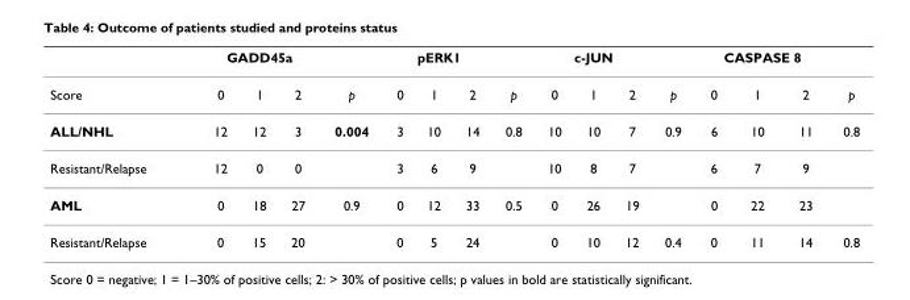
<table><thead><tr><td rowspan="2">Score</td><td colspan="3">GADD45a</td><td rowspan="2">p</td><td colspan="3">pERK1</td><td rowspan="2">p</td><td colspan="3">c-JUN</td><td rowspan="2">p</td><td colspan="3">CASPASE 8</td><td rowspan="2">p</td></tr><tr><td>0</td><td>1</td><td>2</td><td>0</td><td>1</td><td>2</td><td>0</td><td>1</td><td>2</td><td>0</td><td>1</td><td>2</td></tr></thead><tbody><tr><td>ALL/NHL</td><td>12</td><td>12</td><td>3</td><td>0.004</td><td>3</td><td>10</td><td>14</td><td>0.8</td><td>10</td><td>10</td><td>7</td><td>0.9</td><td>6</td><td>10</td><td>11</td><td>0.8</td></tr><tr><td>Resistant/Relapse</td><td>12</td><td>0</td><td>0</td><td></td><td>3</td><td>6</td><td>9</td><td></td><td>10</td><td>8</td><td>7</td><td></td><td>6</td><td>7</td><td>9</td><td></td></tr><tr><td>AML</td><td>0</td><td>18</td><td>27</td><td>0.9</td><td>0</td><td>12</td><td>33</td><td>0.5</td><td>0</td><td>26</td><td>19</td><td></td><td>0</td><td>22</td><td>23</td><td></td></tr><tr><td>Resistant/Relapse</td><td>0</td><td>15</td><td>20</td><td></td><td>0</td><td>5</td><td>24</td><td></td><td>0</td><td>10</td><td>12</td><td>0.4</td><td>0</td><td>11</td><td>14</td><td>0.8</td></tr></tbody></table>